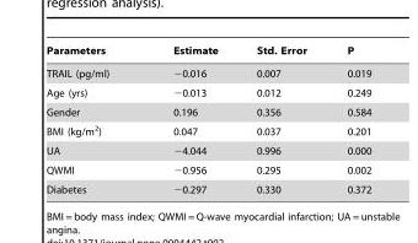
<table><thead><tr><td>Parameters</td><td>Estimate</td><td>Std. Error</td><td>P</td></tr></thead><tbody><tr><td>TRAIL (pg/ml)</td><td>−0.016</td><td>0.007</td><td>0.019</td></tr><tr><td>Age (yrs)</td><td>−0.013</td><td>0.012</td><td>0.249</td></tr><tr><td>Gender</td><td>0.196</td><td>0.356</td><td>0.584</td></tr><tr><td>BMI (kg/m<sup>2</sup>)</td><td>0.047</td><td>0.037</td><td>0.201</td></tr><tr><td>UA</td><td>−4.044</td><td>0.996</td><td>0.000</td></tr><tr><td>QWMI</td><td>−0.956</td><td>0.295</td><td>0.002</td></tr><tr><td>Diabetes</td><td>−0.297</td><td>0.330</td><td>0.372</td></tr></tbody></table>